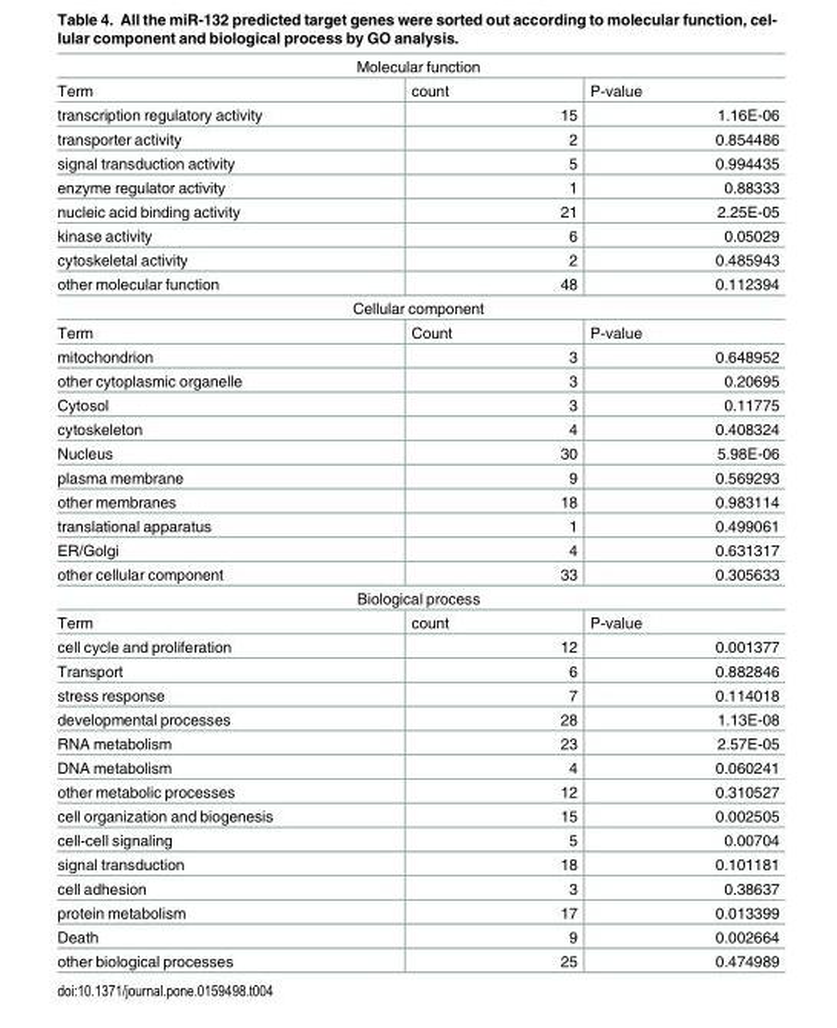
<table><tbody><tr><td colspan="3">Molecular function</td></tr><tr><td>Term</td><td>count</td><td>P-value</td></tr><tr><td>transcription regulatory activity</td><td>15</td><td>1.16E-06</td></tr><tr><td>transporter activity</td><td>2</td><td>0.854486</td></tr><tr><td>signal transduction activity</td><td>5</td><td>0.994435</td></tr><tr><td>enzyme regulator activity</td><td>1</td><td>0.88333</td></tr><tr><td>nucleic acid binding activity</td><td>21</td><td>2.25E-05</td></tr><tr><td>kinase activity</td><td>6</td><td>0.05029</td></tr><tr><td>cytoskeletal activity</td><td>2</td><td>0.485943</td></tr><tr><td>other molecular function</td><td>48</td><td>0.112394</td></tr><tr><td colspan="3">Cellular component</td></tr><tr><td>Term</td><td>Count</td><td>P-value</td></tr><tr><td>mitochondrion</td><td>3</td><td>0.648952</td></tr><tr><td>other cytoplasmic organelle</td><td>3</td><td>0.20695</td></tr><tr><td>Cytosol</td><td>3</td><td>0.11775</td></tr><tr><td>cytoskeleton</td><td>4</td><td>0.408324</td></tr><tr><td>Nucleus</td><td>30</td><td>5.98E-06</td></tr><tr><td>plasma membrane</td><td>9</td><td>0.569293</td></tr><tr><td>other membranes</td><td>18</td><td>0.983114</td></tr><tr><td>translational apparatus</td><td>1</td><td>0.499061</td></tr><tr><td>ER/Golgi</td><td>4</td><td>0.631317</td></tr><tr><td>other cellular component</td><td>33</td><td>0.305633</td></tr><tr><td colspan="3">Biological process</td></tr><tr><td>Term</td><td>count</td><td>P-value</td></tr><tr><td>cell cycle and proliferation</td><td>12</td><td>0.001377</td></tr><tr><td>Transport</td><td>6</td><td>0.882846</td></tr><tr><td>stress response</td><td>7</td><td>0.114018</td></tr><tr><td>developmental processes</td><td>28</td><td>1.13E-08</td></tr><tr><td>RNA metabolism</td><td>23</td><td>2.57E-05</td></tr><tr><td>DNA metabolism</td><td>4</td><td>0.060241</td></tr><tr><td>other metabolic processes</td><td>12</td><td>0.310527</td></tr><tr><td>cell organization and biogenesis</td><td>15</td><td>0.002505</td></tr><tr><td>cell-cell signaling</td><td>5</td><td>0.00704</td></tr><tr><td>signal transduction</td><td>18</td><td>0.101181</td></tr><tr><td>cell adhesion</td><td>3</td><td>0.38637</td></tr><tr><td>protein metabolism</td><td>17</td><td>0.013399</td></tr><tr><td>Death</td><td>9</td><td>0.002664</td></tr><tr><td>other biological processes</td><td>25</td><td>0.474989</td></tr></tbody></table>